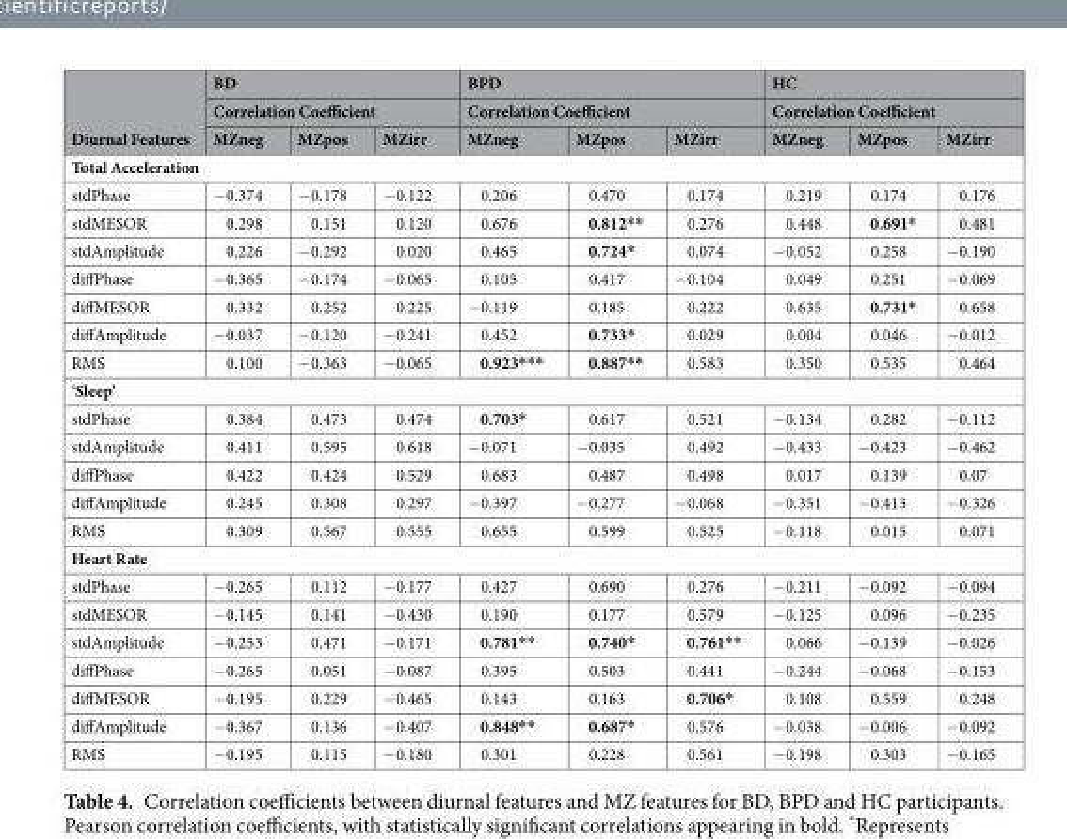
<table><thead><tr><td rowspan="3">Diurnal Features</td><td rowspan="2" colspan="3">BD Correlation Coefficient</td><td rowspan="2" colspan="3">BPD Correlation Coefficient</td><td rowspan="2" colspan="3">HC Correlation Coefficient</td></tr><tr></tr><tr><td>MZneg</td><td>MZpos</td><td>MZirr</td><td>MZneg</td><td>MZpos</td><td>MZirr</td><td>MZneg</td><td>MZpos</td><td>MZirr</td></tr></thead><tbody><tr><td colspan="10">Total Acceleration</td></tr><tr><td>stdPhase</td><td>−0.374</td><td>−0.178</td><td>−0.122</td><td>0.206</td><td>0.470</td><td>0.174</td><td>0.219</td><td>0.174</td><td>0.176</td></tr><tr><td>stdMESOR</td><td>0.298</td><td>0.151</td><td>0.120</td><td>0.676</td><td>0.812**</td><td>0.276</td><td>0.448</td><td>0.691*</td><td>0.481</td></tr><tr><td>stdAmplitude</td><td>0.226</td><td>−0.292</td><td>0.020</td><td>0.465</td><td>0.724*</td><td>0.074</td><td>−0.052</td><td>0.258</td><td>−0.190</td></tr><tr><td>diffPhase</td><td>−0.365</td><td>−0.174</td><td>−0.065</td><td>0.105</td><td>0.417</td><td>−0.104</td><td>0.049</td><td>0.251</td><td>−0.069</td></tr><tr><td>diffMESOR</td><td>0.332</td><td>0.252</td><td>0.225</td><td>−0.119</td><td>0.185</td><td>0.222</td><td>0.635</td><td>0.731*</td><td>0.658</td></tr><tr><td>diffAmplitude</td><td>−0.037</td><td>−0.120</td><td>−0.241</td><td>0.452</td><td>0.733*</td><td>0.029</td><td>0.004</td><td>0.046</td><td>−0.012</td></tr><tr><td>RMS</td><td>0.100</td><td>−0.363</td><td>−0.065</td><td>0.923***</td><td>0.887**</td><td>0.583</td><td>0.350</td><td>0.535</td><td>0.464</td></tr><tr><td colspan="10">‘Sleep’</td></tr><tr><td>stdPhase</td><td>0.384</td><td>0.473</td><td>0.474</td><td>0.703*</td><td>0.617</td><td>0.521</td><td>−0.134</td><td>0.282</td><td>−0.112</td></tr><tr><td>stdAmplitude</td><td>0.411</td><td>0.595</td><td>0.618</td><td>−0.071</td><td>−0.035</td><td>0.492</td><td>−0.433</td><td>−0.423</td><td>−0.462</td></tr><tr><td>diffPhase</td><td>0.422</td><td>0.424</td><td>0.529</td><td>0.683</td><td>0.487</td><td>0.498</td><td>0.017</td><td>0.139</td><td>0.07</td></tr><tr><td>diffAmplitude</td><td>0.245</td><td>0.308</td><td>0.297</td><td>−0.397</td><td>−0.277</td><td>−0.068</td><td>−0.351</td><td>−0.413</td><td>−0.326</td></tr><tr><td>RMS</td><td>0.309</td><td>0.567</td><td>0.555</td><td>0.655</td><td>0.599</td><td>0.525</td><td>−0.118</td><td>0.015</td><td>0.071</td></tr><tr><td colspan="10">Heart Rate</td></tr><tr><td>stdPhase</td><td>−0.265</td><td>0.112</td><td>−0.177</td><td>0.427</td><td>0.690</td><td>0.276</td><td>−0.211</td><td>−0.092</td><td>−0.094</td></tr><tr><td>stdMESOR</td><td>−0.145</td><td>0.141</td><td>−0.430</td><td>0.190</td><td>0.177</td><td>0.579</td><td>−0.125</td><td>0.096</td><td>−0.235</td></tr><tr><td>stdAmplitude</td><td>−0.253</td><td>0.471</td><td>−0.171</td><td>0.781**</td><td>0.740*</td><td>0.761**</td><td>0.066</td><td>−0.139</td><td>−0.026</td></tr><tr><td>diffPhase</td><td>−0.265</td><td>0.051</td><td>−0.087</td><td>0.395</td><td>0.503</td><td>0.441</td><td>−0.244</td><td>−0.068</td><td>−0.153</td></tr><tr><td>diffMESOR</td><td>−0.195</td><td>0.229</td><td>−0.465</td><td>0.143</td><td>0.163</td><td>0.706*</td><td>0.108</td><td>0.559</td><td>0.248</td></tr><tr><td>diffAmplitude</td><td>−0.367</td><td>0.136</td><td>−0.407</td><td>0.848**</td><td>0.687*</td><td>0.576</td><td>−0.038</td><td>−0.006</td><td>−0.092</td></tr><tr><td>RMS</td><td>−0.195</td><td>0.115</td><td>−0.180</td><td>0.301</td><td>0.228</td><td>0.561</td><td>−0.198</td><td>0.303</td><td>−0.165</td></tr></tbody></table>